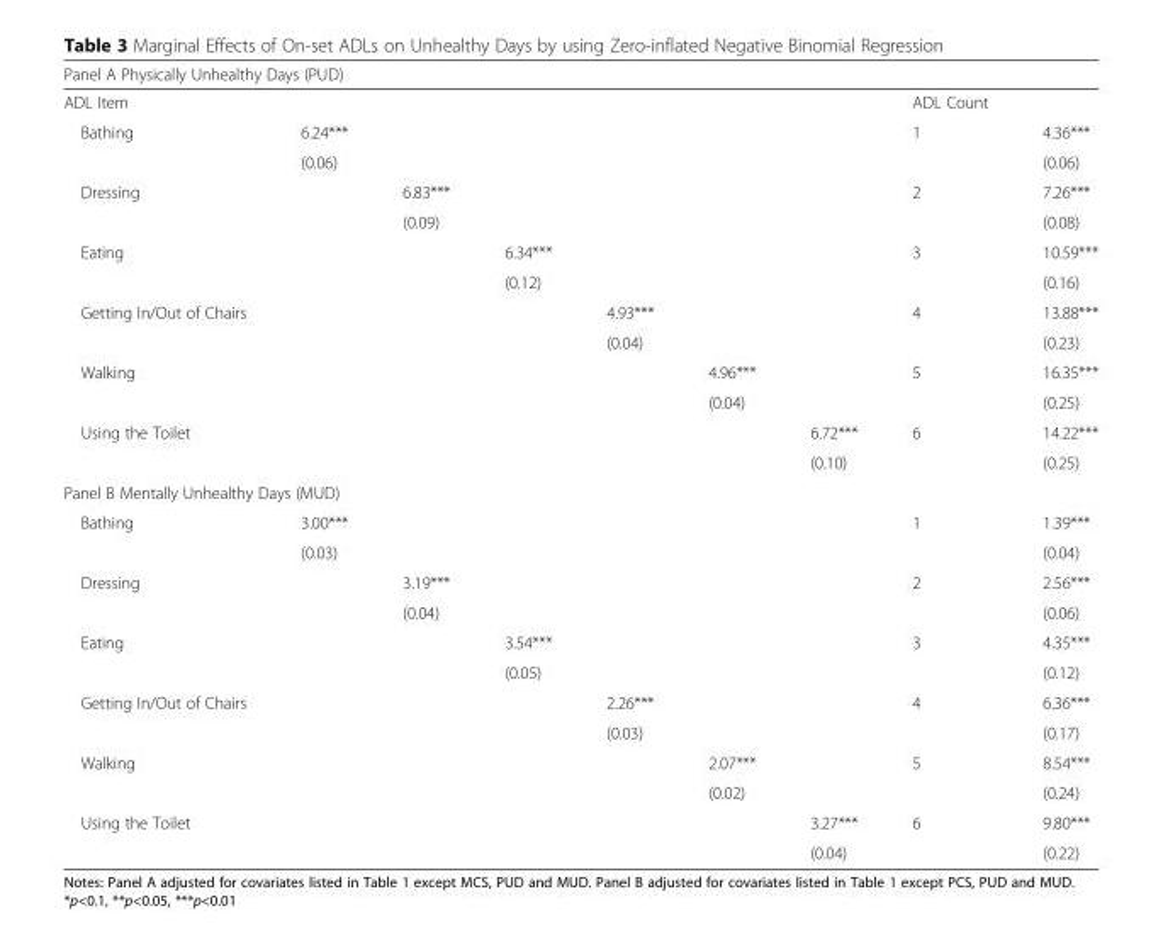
<table><thead><tr><td colspan="9">Panel A Physically Unhealthy Days (PUD)</td></tr><tr><td>ADL Item</td><td></td><td></td><td></td><td></td><td></td><td></td><td>ADL Count</td><td></td></tr></thead><tbody><tr><td rowspan="2">Bathing</td><td>6.24***</td><td></td><td></td><td></td><td></td><td></td><td>1</td><td>4.36***</td></tr><tr><td>(0.06)</td><td></td><td></td><td></td><td></td><td></td><td></td><td>(0.06)</td></tr><tr><td rowspan="2">Dressing</td><td></td><td>6.83***</td><td></td><td></td><td></td><td></td><td>2</td><td>7.26***</td></tr><tr><td></td><td>(0.09)</td><td></td><td></td><td></td><td></td><td></td><td>(0.08)</td></tr><tr><td rowspan="2">Eating</td><td></td><td></td><td>6.34***</td><td></td><td></td><td></td><td>3</td><td>10.59***</td></tr><tr><td></td><td></td><td>(0.12)</td><td></td><td></td><td></td><td></td><td>(0.16)</td></tr><tr><td rowspan="2">Getting In/Out of Chairs</td><td></td><td></td><td></td><td>4.93***</td><td></td><td></td><td>4</td><td>13.88***</td></tr><tr><td></td><td></td><td></td><td>(0.04)</td><td></td><td></td><td></td><td>(0.23)</td></tr><tr><td rowspan="2">Walking</td><td></td><td></td><td></td><td></td><td>4.96***</td><td></td><td>5</td><td>16.35***</td></tr><tr><td></td><td></td><td></td><td></td><td>(0.04)</td><td></td><td></td><td>(0.25)</td></tr><tr><td rowspan="2">Using the Toilet</td><td></td><td></td><td></td><td></td><td></td><td>6.72***</td><td>6</td><td>14.22***</td></tr><tr><td></td><td></td><td></td><td></td><td></td><td>(0.10)</td><td></td><td>(0.25)</td></tr><tr><td colspan="9">Panel B Mentally Unhealthy Days (MUD)</td></tr><tr><td rowspan="2">Bathing</td><td>3.00***</td><td></td><td></td><td></td><td></td><td></td><td>1</td><td>1.39***</td></tr><tr><td>(0.03)</td><td></td><td></td><td></td><td></td><td></td><td></td><td>(0.04)</td></tr><tr><td rowspan="2">Dressing</td><td></td><td>3.19***</td><td></td><td></td><td></td><td></td><td>2</td><td>2.56***</td></tr><tr><td></td><td>(0.04)</td><td></td><td></td><td></td><td></td><td></td><td>(0.06)</td></tr><tr><td rowspan="2">Eating</td><td></td><td></td><td>3.54***</td><td></td><td></td><td></td><td>3</td><td>4.35***</td></tr><tr><td></td><td></td><td>(0.05)</td><td></td><td></td><td></td><td></td><td>(0.12)</td></tr><tr><td rowspan="2">Getting In/Out of Chairs</td><td></td><td></td><td></td><td>2.26***</td><td></td><td></td><td>4</td><td>6.36***</td></tr><tr><td></td><td></td><td></td><td>(0.03)</td><td></td><td></td><td></td><td>(0.17)</td></tr><tr><td rowspan="2">Walking</td><td></td><td></td><td></td><td></td><td>2.07***</td><td></td><td>5</td><td>8.54***</td></tr><tr><td></td><td></td><td></td><td></td><td>(0.02)</td><td></td><td></td><td>(0.24)</td></tr><tr><td rowspan="2">Using the Toilet</td><td></td><td></td><td></td><td></td><td></td><td>3.27***</td><td>6</td><td>9.80***</td></tr><tr><td></td><td></td><td></td><td></td><td></td><td>(0.04)</td><td></td><td>(0.22)</td></tr></tbody></table>